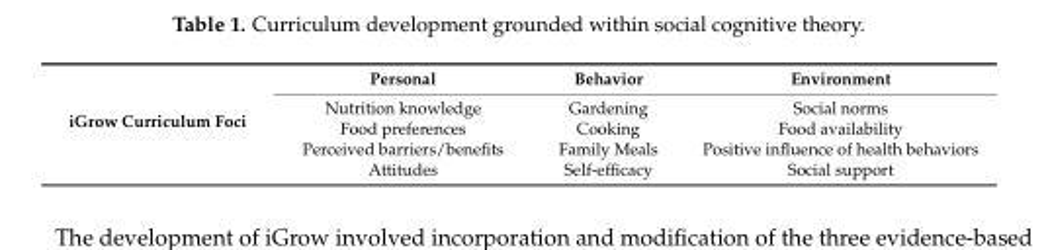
<table><tbody><tr><td rowspan="5">iGrow Curriculum Foci</td><td>Personal</td><td>Behavior</td><td>Environment</td></tr><tr><td>Nutrition knowledge</td><td>Gardening</td><td>Social norms</td></tr><tr><td>Food preferences</td><td>Cooking</td><td>Food availability</td></tr><tr><td>Perceived barriers/benefits</td><td>Family Meals</td><td>Positive influence of health behaviors</td></tr><tr><td>Attitudes</td><td>Self-efficacy</td><td>Social support</td></tr></tbody></table>